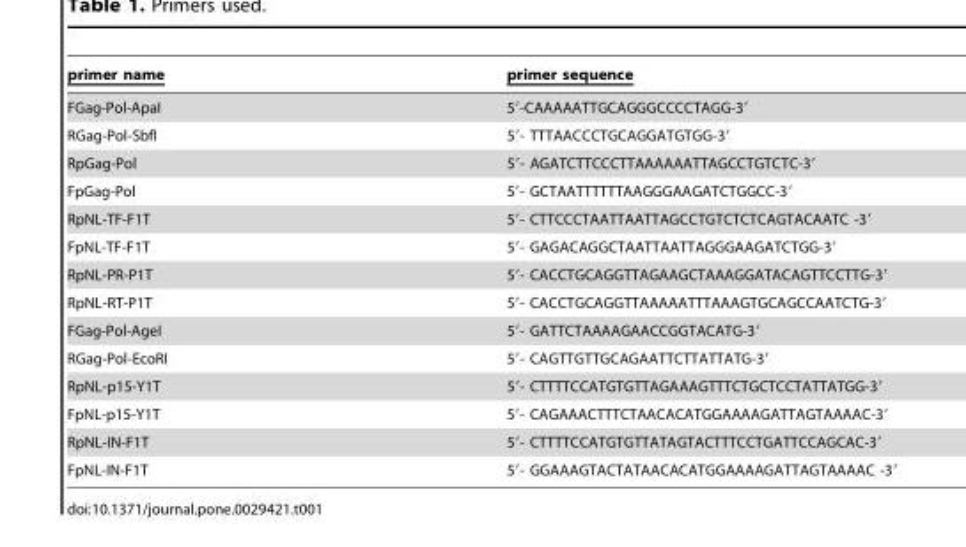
<table><thead><tr><td>primer name</td><td>primer sequence</td></tr></thead><tbody><tr><td>FGag-Pol-ApaI</td><td>5′-CAAAAATTGCAGGGCCCCTAGG-3′</td></tr><tr><td>RGag-Pol-SbfI</td><td>5′- TTTAACCCTGCAGGATGTGG-3′</td></tr><tr><td>RpGag-Pol</td><td>5′- AGATCTTCCCTTAAAAAATTAGCCTGTCTC-3′</td></tr><tr><td>FpGag-Pol</td><td>5′- GCTAATTTTTTAAGGGAAGATCTGGCC-3′</td></tr><tr><td>RpNL-TF-F1T</td><td>5′- CTTCCCTAATTAATTAGCCTGTCTCTCAGTACAATC -3′</td></tr><tr><td>FpNL-TF-F1T</td><td>5′- GAGACAGGCTAATTAATTAGGGAAGATCTGG-3′</td></tr><tr><td>RpNL-PR-P1T</td><td>5′- CACCTGCAGGTTAGAAGCTAAAGGATACAGTTCCTTG-3′</td></tr><tr><td>RpNL-RT-P1T</td><td>5′- CACCTGCAGGTTAAAAATTTAAAGTGCAGCCAATCTG-3′</td></tr><tr><td>FGag-Pol-AgeI</td><td>5′- GATTCTAAAAGAACCGGTACATG-3′</td></tr><tr><td>RGag-Pol-EcoRI</td><td>5′- CAGTTGTTGCAGAATTCTTATTATG-3′</td></tr><tr><td>RpNL-p15-Y1T</td><td>5′- CTTTTCCATGTGTTAGAAAGTTTCTGCTCCTATTATGG-3′</td></tr><tr><td>FpNL-p15-Y1T</td><td>5′- CAGAAACTTTCTAACACATGGAAAAGATTAGTAAAAC-3′</td></tr><tr><td>RpNL-IN-F1T</td><td>5′- CTTTTCCATGTGTTATAGTACTTTCCTGATTCCAGCAC-3′</td></tr><tr><td>FpNL-IN-F1T</td><td>5′- GGAAAGTACTATAACACATGGAAAAGATTAGTAAAAC -3′</td></tr></tbody></table>